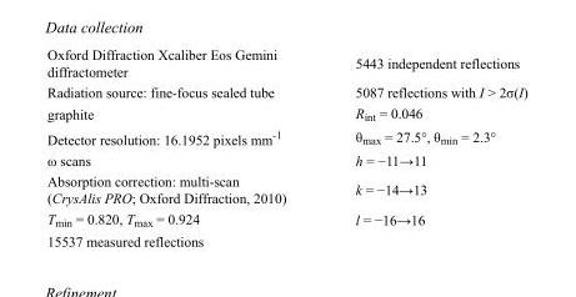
<table><tbody><tr><td>Oxford Diffraction Xcaliber Eos Gemini diffractometer</td><td>5443 independent reflections</td></tr><tr><td>Radiation source: fine-focus sealed tube</td><td>5087 reflections with I &gt; 2σ(I)</td></tr><tr><td>graphite</td><td>R<sub>int</sub> = 0.046</td></tr><tr><td>Detector resolution: 16.1952 pixels mm<sup>-1</sup></td><td>θ<sub>max</sub> = 27.5°, θ<sub>min</sub> = 2.3°</td></tr><tr><td>ω scans</td><td>h = −11→11</td></tr><tr><td>Absorption correction: multi-scan (CrysAlis PRO; Oxford Diffraction, 2010)</td><td>k = −14→13</td></tr><tr><td>T<sub>min</sub> = 0.820, T<sub>max</sub> = 0.924</td><td>l = −16→16</td></tr><tr><td>15537 measured reflections</td><td></td></tr></tbody></table>